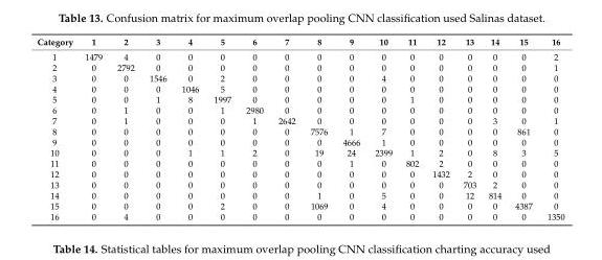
<table><thead><tr><td>Category</td><td>1</td><td>2</td><td>3</td><td>4</td><td>5</td><td>6</td><td>7</td><td>8</td><td>9</td><td>10</td><td>11</td><td>12</td><td>13</td><td>14</td><td>15</td><td>16</td></tr></thead><tbody><tr><td>1</td><td>1479</td><td>4</td><td>0</td><td>0</td><td>0</td><td>0</td><td>0</td><td>0</td><td>0</td><td>0</td><td>0</td><td>0</td><td>0</td><td>0</td><td>0</td><td>2</td></tr><tr><td>2</td><td>0</td><td>2792</td><td>0</td><td>0</td><td>0</td><td>0</td><td>0</td><td>0</td><td>0</td><td>0</td><td>0</td><td>0</td><td>0</td><td>0</td><td>0</td><td>1</td></tr><tr><td>3</td><td>0</td><td>0</td><td>1546</td><td>0</td><td>2</td><td>0</td><td>0</td><td>0</td><td>0</td><td>4</td><td>0</td><td>0</td><td>0</td><td>0</td><td>0</td><td>0</td></tr><tr><td>4</td><td>0</td><td>0</td><td>0</td><td>1046</td><td>5</td><td>0</td><td>0</td><td>0</td><td>0</td><td>0</td><td>0</td><td>0</td><td>0</td><td>0</td><td>0</td><td>0</td></tr><tr><td>5</td><td>0</td><td>0</td><td>1</td><td>8</td><td>1997</td><td>0</td><td>0</td><td>0</td><td>0</td><td>0</td><td>1</td><td>0</td><td>0</td><td>0</td><td>0</td><td>0</td></tr><tr><td>6</td><td>0</td><td>1</td><td>0</td><td>0</td><td>1</td><td>2980</td><td>0</td><td>0</td><td>0</td><td>0</td><td>0</td><td>0</td><td>0</td><td>0</td><td>0</td><td>0</td></tr><tr><td>7</td><td>0</td><td>1</td><td>0</td><td>0</td><td>0</td><td>1</td><td>2642</td><td>0</td><td>0</td><td>0</td><td>0</td><td>0</td><td>0</td><td>3</td><td>0</td><td>1</td></tr><tr><td>8</td><td>0</td><td>0</td><td>0</td><td>0</td><td>0</td><td>0</td><td>0</td><td>7576</td><td>1</td><td>7</td><td>0</td><td>0</td><td>0</td><td>0</td><td>861</td><td>0</td></tr><tr><td>9</td><td>0</td><td>0</td><td>0</td><td>0</td><td>0</td><td>0</td><td>0</td><td>0</td><td>4666</td><td>1</td><td>0</td><td>0</td><td>0</td><td>0</td><td>0</td><td>0</td></tr><tr><td>10</td><td>0</td><td>0</td><td>0</td><td>1</td><td>1</td><td>2</td><td>0</td><td>19</td><td>24</td><td>2399</td><td>1</td><td>2</td><td>0</td><td>8</td><td>3</td><td>5</td></tr><tr><td>11</td><td>0</td><td>0</td><td>0</td><td>0</td><td>0</td><td>0</td><td>0</td><td>0</td><td>1</td><td>0</td><td>802</td><td>2</td><td>0</td><td>0</td><td>0</td><td>0</td></tr><tr><td>12</td><td>0</td><td>0</td><td>0</td><td>0</td><td>0</td><td>0</td><td>0</td><td>0</td><td>0</td><td>0</td><td>0</td><td>1432</td><td>2</td><td>0</td><td>0</td><td>0</td></tr><tr><td>13</td><td>0</td><td>0</td><td>0</td><td>0</td><td>0</td><td>0</td><td>0</td><td>0</td><td>0</td><td>0</td><td>0</td><td>0</td><td>703</td><td>2</td><td>0</td><td>0</td></tr><tr><td>14</td><td>0</td><td>0</td><td>0</td><td>0</td><td>0</td><td>0</td><td>0</td><td>1</td><td>0</td><td>5</td><td>0</td><td>0</td><td>12</td><td>814</td><td>0</td><td>0</td></tr><tr><td>15</td><td>0</td><td>0</td><td>0</td><td>0</td><td>2</td><td>0</td><td>0</td><td>1069</td><td>0</td><td>4</td><td>0</td><td>0</td><td>0</td><td>0</td><td>4387</td><td>0</td></tr><tr><td>16</td><td>0</td><td>4</td><td>0</td><td>0</td><td>0</td><td>0</td><td>0</td><td>0</td><td>0</td><td>0</td><td>0</td><td>0</td><td>0</td><td>0</td><td>0</td><td>1350</td></tr></tbody></table>